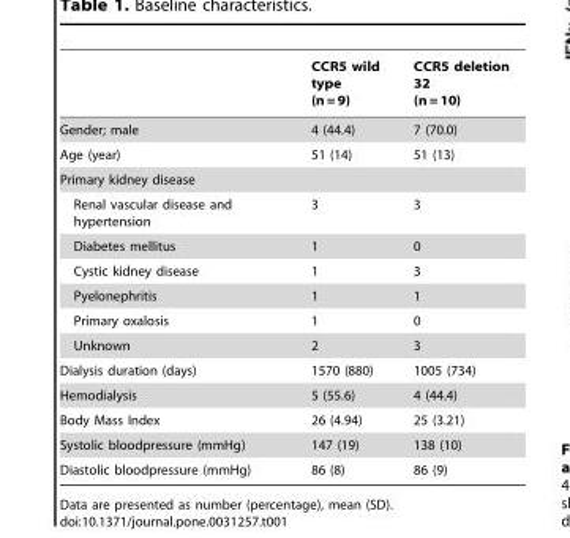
<table><thead><tr><td></td><td>CCR5 wild type (n = 9)</td><td>CCR5 deletion 32 (n = 10)</td></tr></thead><tbody><tr><td>Gender; male</td><td>4 (44.4)</td><td>7 (70.0)</td></tr><tr><td>Age (year)</td><td>51 (14)</td><td>51 (13)</td></tr><tr><td colspan="3">Primary kidney disease</td></tr><tr><td>Renal vascular disease and hypertension</td><td>3</td><td>3</td></tr><tr><td>Diabetes mellitus</td><td>1</td><td>0</td></tr><tr><td>Cystic kidney disease</td><td>1</td><td>3</td></tr><tr><td>Pyelonephritis</td><td>1</td><td>1</td></tr><tr><td>Primary oxalosis</td><td>1</td><td>0</td></tr><tr><td>Unknown</td><td>2</td><td>3</td></tr><tr><td>Dialysis duration (days)</td><td>1570 (880)</td><td>1005 (734)</td></tr><tr><td>Hemodialysis</td><td>5 (55.6)</td><td>4 (44.4)</td></tr><tr><td>Body Mass Index</td><td>26 (4.94)</td><td>25 (3.21)</td></tr><tr><td>Systolic bloodpressure (mmHg)</td><td>147 (19)</td><td>138 (10)</td></tr><tr><td>Diastolic bloodpressure (mmHg)</td><td>86 (8)</td><td>86 (9)</td></tr></tbody></table>